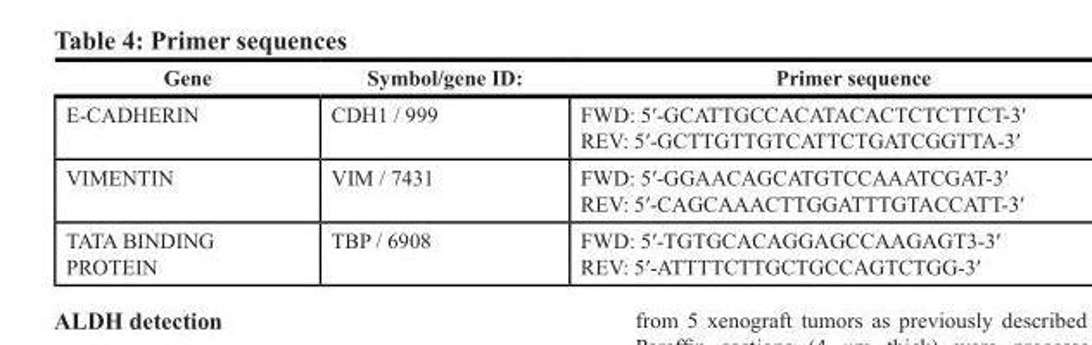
<table><thead><tr><td>Gene</td><td>Symbol/gene ID:</td><td>Primer sequence</td></tr></thead><tbody><tr><td>E-CADHERIN</td><td>CDH1 / 999</td><td>FWD: 5′-GCATTGCCACATACACTCTCTTCT-3′ REV: 5′-GCTTGTTGTCATTCTGATCGGTTA-3′</td></tr><tr><td>VIMENTIN</td><td>VIM / 7431</td><td>FWD: 5′-GGAACAGCATGTCCAAATCGAT-3′ REV: 5′-CAGCAAACTTGGATTTGTACCATT-3′</td></tr><tr><td>TATA BINDING PROTEIN</td><td>TBP / 6908</td><td>FWD: 5′-TGTGCACAGGAGCCAAGAGT3-3′ REV: 5′-ATTTTCTTGCTGCCAGTCTGG-3′</td></tr></tbody></table>